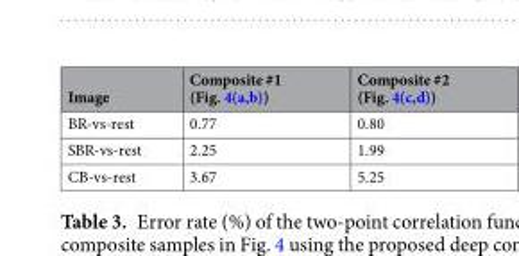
<table><thead><tr><td>Image</td><td>Composite #1 (Fig. 4(a,b))</td><td>Composite #2 (Fig. 4(c,d))</td></tr></thead><tbody><tr><td>BR-vs-rest</td><td>0.77</td><td>0.80</td></tr><tr><td>SBR-vs-rest</td><td>2.25</td><td>1.99</td></tr><tr><td>CB-vs-rest</td><td>3.67</td><td>5.25</td></tr></tbody></table>